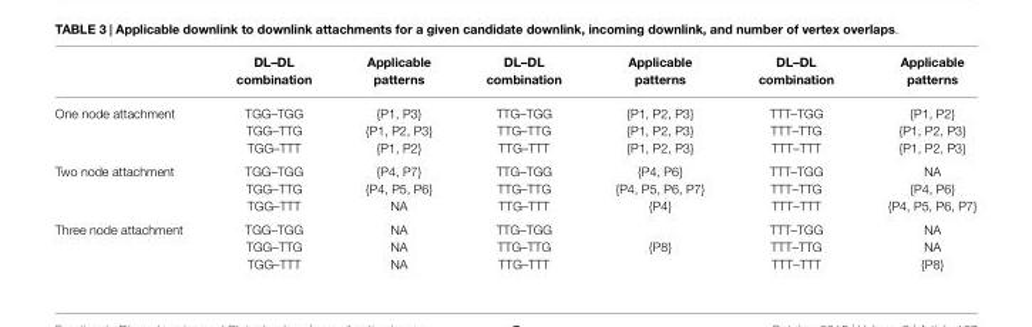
<table><thead><tr><td></td><td>DL–DL combination</td><td>Applicable patterns</td><td>DL–DL combination</td><td>Applicable patterns</td><td>DL–DL combination</td><td>Applicable patterns</td></tr></thead><tbody><tr><td rowspan="3">One node attachment</td><td>TGG–TGG</td><td>{P1, P3}</td><td>TTG–TGG</td><td>{P1, P2, P3}</td><td>TTT–TGG</td><td>{P1, P2}</td></tr><tr><td>TGG–TTG</td><td>{P1, P2, P3}</td><td>TTG–TTG</td><td>{P1, P2, P3}</td><td>TTT–TTG</td><td>{P1, P2, P3}</td></tr><tr><td>TGG–TTT</td><td>{P1, P2}</td><td>TTG–TTT</td><td>{P1, P2, P3}</td><td>TTT–TTT</td><td>{P1, P2, P3}</td></tr><tr><td rowspan="3">Two node attachment</td><td>TGG–TGG</td><td>{P4, P7}</td><td>TTG–TGG</td><td>{P4, P6}</td><td>TTT–TGG</td><td>NA</td></tr><tr><td>TGG–TTG</td><td>{P4, P5, P6}</td><td>TTG–TTG</td><td>{P4, P5, P6, P7}</td><td>TTT–TTG</td><td>{P4, P6}</td></tr><tr><td>TGG–TTT</td><td>NA</td><td>TTG–TTT</td><td>{P4}</td><td>TTT–TTT</td><td>{P4, P5, P6, P7}</td></tr><tr><td rowspan="3">Three node attachment</td><td>TGG–TGG</td><td>NA</td><td>TTG–TGG</td><td></td><td>TTT–TGG</td><td>NA</td></tr><tr><td>TGG–TTG</td><td>NA</td><td>TTG–TTG</td><td>{P8}</td><td>TTT–TTG</td><td>NA</td></tr><tr><td>TGG–TTT</td><td>NA</td><td>TTG–TTT</td><td></td><td>TTT–TTT</td><td>{P8}</td></tr></tbody></table>